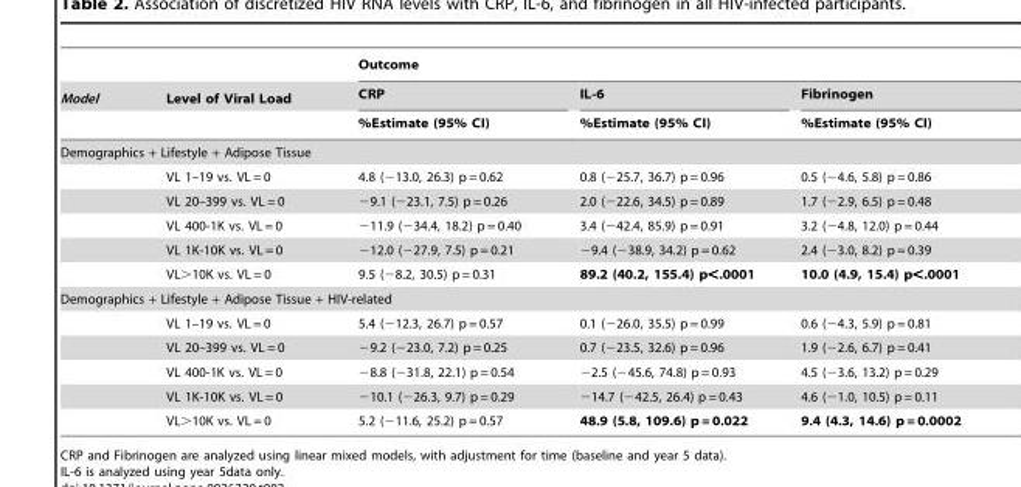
<table><thead><tr><td rowspan="3">Model</td><td rowspan="3">Level of Viral Load</td><td colspan="3">Outcome</td></tr><tr><td rowspan="2">CRP %Estimate (95% CI)</td><td rowspan="2">IL-6 %Estimate (95% CI)</td><td rowspan="2">Fibrinogen %Estimate (95% CI)</td></tr><tr></tr></thead><tbody><tr><td colspan="5">Demographics + Lifestyle + Adipose Tissue</td></tr><tr><td></td><td>VL 1–19 vs. VL = 0</td><td>4.8 (−13.0, 26.3) p = 0.62</td><td>0.8 (−25.7, 36.7) p = 0.96</td><td>0.5 (−4.6, 5.8) p = 0.86</td></tr><tr><td></td><td>VL 20–399 vs. VL = 0</td><td>−9.1 (−23.1, 7.5) p = 0.26</td><td>2.0 (−22.6, 34.5) p = 0.89</td><td>1.7 (−2.9, 6.5) p = 0.48</td></tr><tr><td></td><td>VL 400-1K vs. VL = 0</td><td>−11.9 (−34.4, 18.2) p = 0.40</td><td>3.4 (−42.4, 85.9) p = 0.91</td><td>3.2 (−4.8, 12.0) p = 0.44</td></tr><tr><td></td><td>VL 1K-10K vs. VL = 0</td><td>−12.0 (−27.9, 7.5) p = 0.21</td><td>−9.4 (−38.9, 34.2) p = 0.62</td><td>2.4 (−3.0, 8.2) p = 0.39</td></tr><tr><td></td><td>VL&gt;10K vs. VL = 0</td><td>9.5 (−8.2, 30.5) p = 0.31</td><td>89.2 (40.2, 155.4) p&lt;.0001</td><td>10.0 (4.9, 15.4) p&lt;.0001</td></tr><tr><td colspan="5">Demographics + Lifestyle + Adipose Tissue + HIV-related</td></tr><tr><td></td><td>VL 1–19 vs. VL = 0</td><td>5.4 (−12.3, 26.7) p = 0.57</td><td>0.1 (−26.0, 35.5) p = 0.99</td><td>0.6 (−4.3, 5.9) p = 0.81</td></tr><tr><td></td><td>VL 20–399 vs. VL = 0</td><td>−9.2 (−23.0, 7.2) p = 0.25</td><td>0.7 (−23.5, 32.6) p = 0.96</td><td>1.9 (−2.6, 6.7) p = 0.41</td></tr><tr><td></td><td>VL 400-1K vs. VL = 0</td><td>−8.8 (−31.8, 22.1) p = 0.54</td><td>−2.5 (−45.6, 74.8) p = 0.93</td><td>4.5 (−3.6, 13.2) p = 0.29</td></tr><tr><td></td><td>VL 1K-10K vs. VL = 0</td><td>−10.1 (−26.3, 9.7) p = 0.29</td><td>−14.7 (−42.5, 26.4) p = 0.43</td><td>4.6 (−1.0, 10.5) p = 0.11</td></tr><tr><td></td><td>VL&gt;10K vs. VL = 0</td><td>5.2 (−11.6, 25.2) p = 0.57</td><td>48.9 (5.8, 109.6) p = 0.022</td><td>9.4 (4.3, 14.6) p = 0.0002</td></tr></tbody></table>